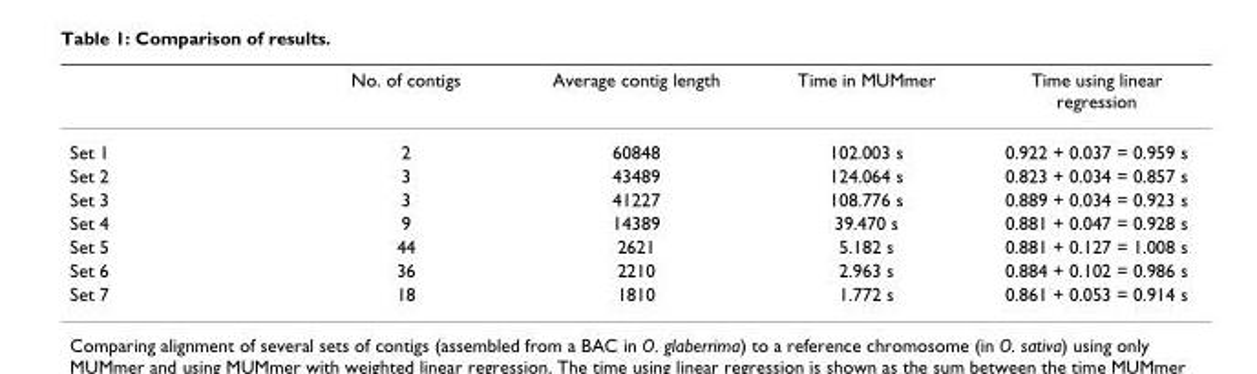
<table><thead><tr><td></td><td>No. of contigs</td><td>Average contig length</td><td>Time in MUMmer</td><td>Time using linear regression</td></tr></thead><tbody><tr><td>Set 1</td><td>2</td><td>60848</td><td>102.003 s</td><td>0.922 + 0.037 = 0.959 s</td></tr><tr><td>Set 2</td><td>3</td><td>43489</td><td>124.064 s</td><td>0.823 + 0.034 = 0.857 s</td></tr><tr><td>Set 3</td><td>3</td><td>41227</td><td>108.776 s</td><td>0.889 + 0.034 = 0.923 s</td></tr><tr><td>Set 4</td><td>9</td><td>14389</td><td>39.470 s</td><td>0.881 + 0.047 = 0.928 s</td></tr><tr><td>Set 5</td><td>44</td><td>2621</td><td>5.182 s</td><td>0.881 + 0.127 = 1.008 s</td></tr><tr><td>Set 6</td><td>36</td><td>2210</td><td>2.963 s</td><td>0.884 + 0.102 = 0.986 s</td></tr><tr><td>Set 7</td><td>18</td><td>1810</td><td>1.772 s</td><td>0.861 + 0.053 = 0.914 s</td></tr></tbody></table>